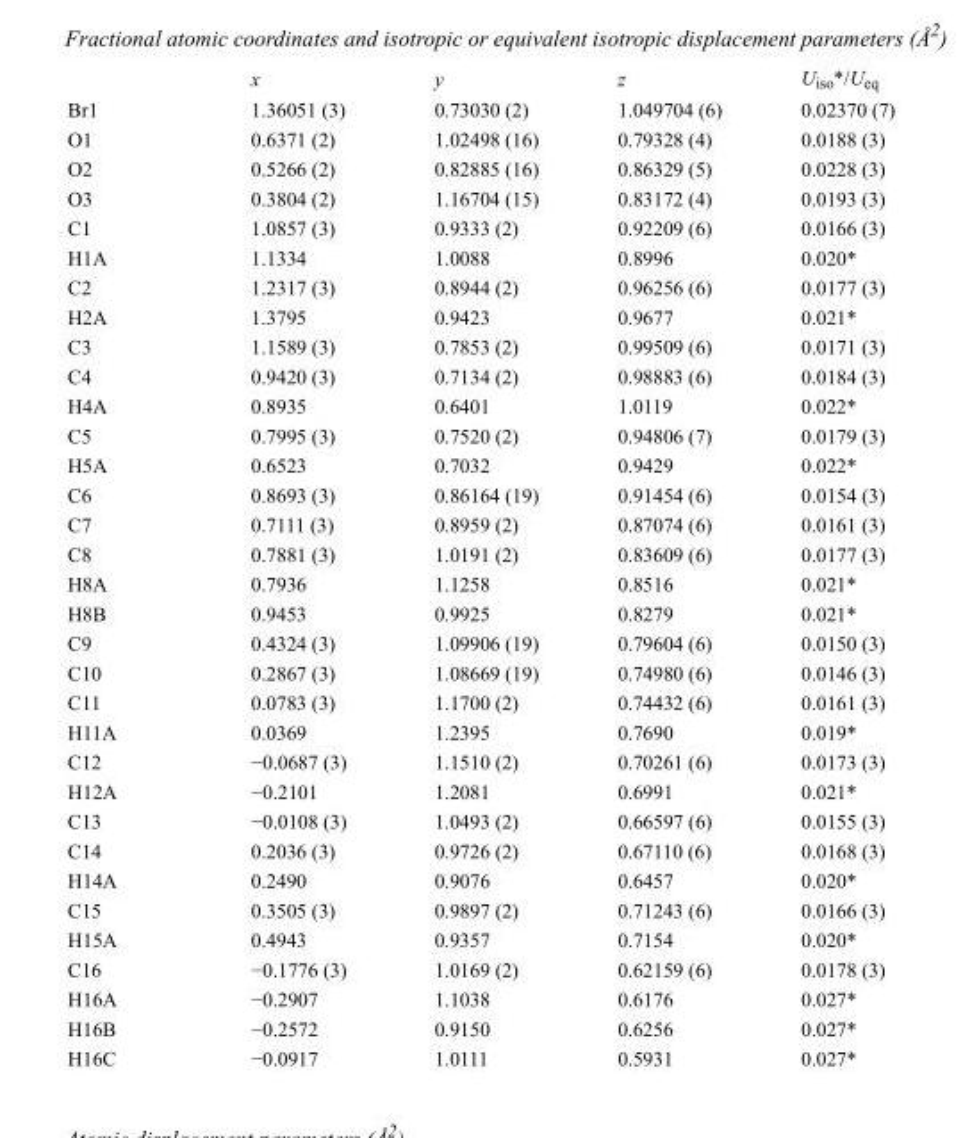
<table><thead><tr><td></td><td>x</td><td>y</td><td>z</td><td>U<sub>iso</sub>*/U<sub>eq</sub></td></tr></thead><tbody><tr><td>Br1</td><td>1.36051 (3)</td><td>0.73030 (2)</td><td>1.049704 (6)</td><td>0.02370 (7)</td></tr><tr><td>O1</td><td>0.6371 (2)</td><td>1.02498 (16)</td><td>0.79328 (4)</td><td>0.0188 (3)</td></tr><tr><td>O2</td><td>0.5266 (2)</td><td>0.82885 (16)</td><td>0.86329 (5)</td><td>0.0228 (3)</td></tr><tr><td>O3</td><td>0.3804 (2)</td><td>1.16704 (15)</td><td>0.83172 (4)</td><td>0.0193 (3)</td></tr><tr><td>C1</td><td>1.0857 (3)</td><td>0.9333 (2)</td><td>0.92209 (6)</td><td>0.0166 (3)</td></tr><tr><td>H1A</td><td>1.1334</td><td>1.0088</td><td>0.8996</td><td>0.020*</td></tr><tr><td>C2</td><td>1.2317 (3)</td><td>0.8944 (2)</td><td>0.96256 (6)</td><td>0.0177 (3)</td></tr><tr><td>H2A</td><td>1.3795</td><td>0.9423</td><td>0.9677</td><td>0.021*</td></tr><tr><td>C3</td><td>1.1589 (3)</td><td>0.7853 (2)</td><td>0.99509 (6)</td><td>0.0171 (3)</td></tr><tr><td>C4</td><td>0.9420 (3)</td><td>0.7134 (2)</td><td>0.98883 (6)</td><td>0.0184 (3)</td></tr><tr><td>H4A</td><td>0.8935</td><td>0.6401</td><td>1.0119</td><td>0.022*</td></tr><tr><td>C5</td><td>0.7995 (3)</td><td>0.7520 (2)</td><td>0.94806 (7)</td><td>0.0179 (3)</td></tr><tr><td>H5A</td><td>0.6523</td><td>0.7032</td><td>0.9429</td><td>0.022*</td></tr><tr><td>C6</td><td>0.8693 (3)</td><td>0.86164 (19)</td><td>0.91454 (6)</td><td>0.0154 (3)</td></tr><tr><td>C7</td><td>0.7111 (3)</td><td>0.8959 (2)</td><td>0.87074 (6)</td><td>0.0161 (3)</td></tr><tr><td>C8</td><td>0.7881 (3)</td><td>1.0191 (2)</td><td>0.83609 (6)</td><td>0.0177 (3)</td></tr><tr><td>H8A</td><td>0.7936</td><td>1.1258</td><td>0.8516</td><td>0.021*</td></tr><tr><td>H8B</td><td>0.9453</td><td>0.9925</td><td>0.8279</td><td>0.021*</td></tr><tr><td>C9</td><td>0.4324 (3)</td><td>1.09906 (19)</td><td>0.79604 (6)</td><td>0.0150 (3)</td></tr><tr><td>C10</td><td>0.2867 (3)</td><td>1.08669 (19)</td><td>0.74980 (6)</td><td>0.0146 (3)</td></tr><tr><td>C11</td><td>0.0783 (3)</td><td>1.1700 (2)</td><td>0.74432 (6)</td><td>0.0161 (3)</td></tr><tr><td>H11A</td><td>0.0369</td><td>1.2395</td><td>0.7690</td><td>0.019*</td></tr><tr><td>C12</td><td>−0.0687 (3)</td><td>1.1510 (2)</td><td>0.70261 (6)</td><td>0.0173 (3)</td></tr><tr><td>H12A</td><td>−0.2101</td><td>1.2081</td><td>0.6991</td><td>0.021*</td></tr><tr><td>C13</td><td>−0.0108 (3)</td><td>1.0493 (2)</td><td>0.66597 (6)</td><td>0.0155 (3)</td></tr><tr><td>C14</td><td>0.2036 (3)</td><td>0.9726 (2)</td><td>0.67110 (6)</td><td>0.0168 (3)</td></tr><tr><td>H14A</td><td>0.2490</td><td>0.9076</td><td>0.6457</td><td>0.020*</td></tr><tr><td>C15</td><td>0.3505 (3)</td><td>0.9897 (2)</td><td>0.71243 (6)</td><td>0.0166 (3)</td></tr><tr><td>H15A</td><td>0.4943</td><td>0.9357</td><td>0.7154</td><td>0.020*</td></tr><tr><td>C16</td><td>−0.1776 (3)</td><td>1.0169 (2)</td><td>0.62159 (6)</td><td>0.0178 (3)</td></tr><tr><td>H16A</td><td>−0.2907</td><td>1.1038</td><td>0.6176</td><td>0.027*</td></tr><tr><td>H16B</td><td>−0.2572</td><td>0.9150</td><td>0.6256</td><td>0.027*</td></tr><tr><td>H16C</td><td>−0.0917</td><td>1.0111</td><td>0.5931</td><td>0.027*</td></tr></tbody></table>